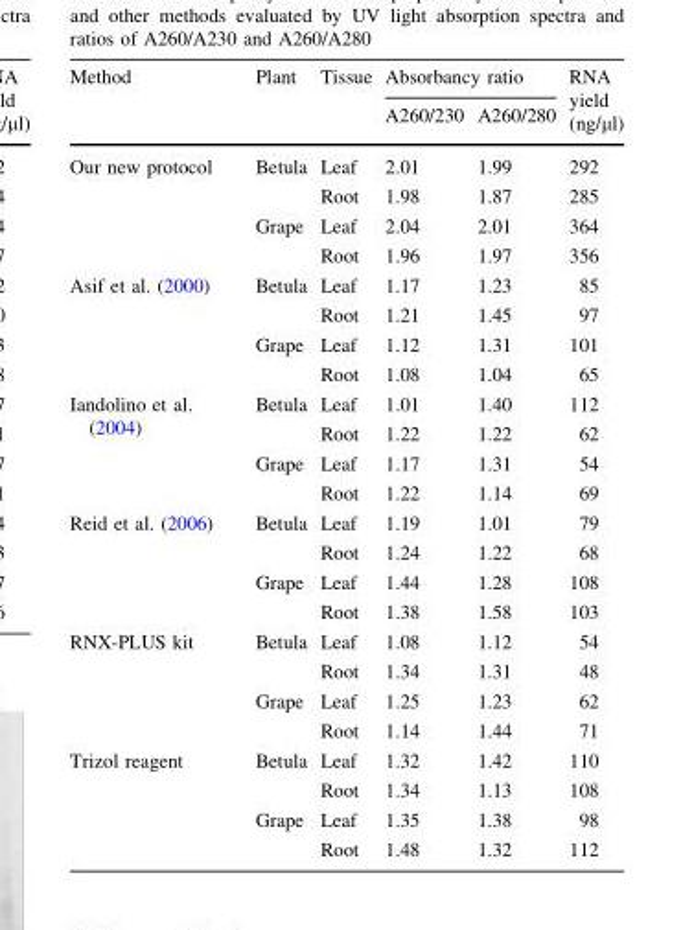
<table><thead><tr><td rowspan="2">Method</td><td rowspan="2">Plant</td><td rowspan="2">Tissue</td><td colspan="2">Absorbancy ratio</td><td rowspan="2">RNA yield (ng/µl)</td></tr><tr><td>A260/230</td><td>A260/280</td></tr></thead><tbody><tr><td rowspan="4">Our new protocol</td><td rowspan="2">Betula</td><td>Leaf</td><td>2.01</td><td>1.99</td><td>292</td></tr><tr><td>Root</td><td>1.98</td><td>1.87</td><td>285</td></tr><tr><td rowspan="2">Grape</td><td>Leaf</td><td>2.04</td><td>2.01</td><td>364</td></tr><tr><td>Root</td><td>1.96</td><td>1.97</td><td>356</td></tr><tr><td rowspan="4">Asif et al. (2000)</td><td rowspan="2">Betula</td><td>Leaf</td><td>1.17</td><td>1.23</td><td>85</td></tr><tr><td>Root</td><td>1.21</td><td>1.45</td><td>97</td></tr><tr><td rowspan="2">Grape</td><td>Leaf</td><td>1.12</td><td>1.31</td><td>101</td></tr><tr><td>Root</td><td>1.08</td><td>1.04</td><td>65</td></tr><tr><td rowspan="4">Iandolino et al. (2004)</td><td rowspan="2">Betula</td><td>Leaf</td><td>1.01</td><td>1.40</td><td>112</td></tr><tr><td>Root</td><td>1.22</td><td>1.22</td><td>62</td></tr><tr><td rowspan="2">Grape</td><td>Leaf</td><td>1.17</td><td>1.31</td><td>54</td></tr><tr><td>Root</td><td>1.22</td><td>1.14</td><td>69</td></tr><tr><td rowspan="4">Reid et al. (2006)</td><td rowspan="2">Betula</td><td>Leaf</td><td>1.19</td><td>1.01</td><td>79</td></tr><tr><td>Root</td><td>1.24</td><td>1.22</td><td>68</td></tr><tr><td rowspan="2">Grape</td><td>Leaf</td><td>1.44</td><td>1.28</td><td>108</td></tr><tr><td>Root</td><td>1.38</td><td>1.58</td><td>103</td></tr><tr><td rowspan="4">RNX-PLUS kit</td><td rowspan="2">Betula</td><td>Leaf</td><td>1.08</td><td>1.12</td><td>54</td></tr><tr><td>Root</td><td>1.34</td><td>1.31</td><td>48</td></tr><tr><td rowspan="2">Grape</td><td>Leaf</td><td>1.25</td><td>1.23</td><td>62</td></tr><tr><td>Root</td><td>1.14</td><td>1.44</td><td>71</td></tr><tr><td rowspan="4">Trizol reagent</td><td rowspan="2">Betula</td><td>Leaf</td><td>1.32</td><td>1.42</td><td>110</td></tr><tr><td>Root</td><td>1.34</td><td>1.13</td><td>108</td></tr><tr><td rowspan="2">Grape</td><td>Leaf</td><td>1.35</td><td>1.38</td><td>98</td></tr><tr><td>Root</td><td>1.48</td><td>1.32</td><td>112</td></tr></tbody></table>